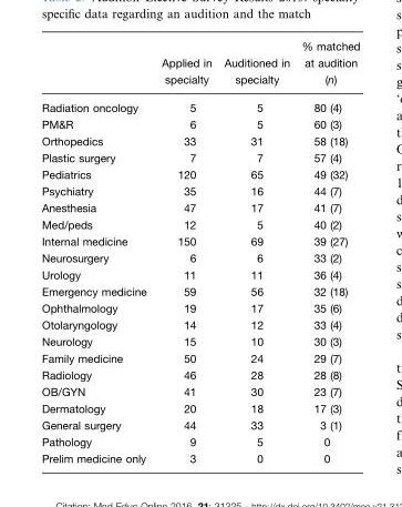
<table><thead><tr><td></td><td>Applied in specialty</td><td>Auditioned in specialty</td><td>% matched at audition (n)</td></tr></thead><tbody><tr><td>Radiation oncology</td><td>5</td><td>5</td><td>80 (4)</td></tr><tr><td>PM&amp;R</td><td>6</td><td>5</td><td>60 (3)</td></tr><tr><td>Orthopedics</td><td>33</td><td>31</td><td>58 (18)</td></tr><tr><td>Plastic surgery</td><td>7</td><td>7</td><td>57 (4)</td></tr><tr><td>Pediatrics</td><td>120</td><td>65</td><td>49 (32)</td></tr><tr><td>Psychiatry</td><td>35</td><td>16</td><td>44 (7)</td></tr><tr><td>Anesthesia</td><td>47</td><td>17</td><td>41 (7)</td></tr><tr><td>Med/peds</td><td>12</td><td>5</td><td>40 (2)</td></tr><tr><td>Internal medicine</td><td>150</td><td>69</td><td>39 (27)</td></tr><tr><td>Neurosurgery</td><td>6</td><td>6</td><td>33 (2)</td></tr><tr><td>Urology</td><td>11</td><td>11</td><td>36 (4)</td></tr><tr><td>Emergency medicine</td><td>59</td><td>56</td><td>32 (18)</td></tr><tr><td>Ophthalmology</td><td>19</td><td>17</td><td>35 (6)</td></tr><tr><td>Otolaryngology</td><td>14</td><td>12</td><td>33 (4)</td></tr><tr><td>Neurology</td><td>15</td><td>10</td><td>30 (3)</td></tr><tr><td>Family medicine</td><td>50</td><td>24</td><td>29 (7)</td></tr><tr><td>Radiology</td><td>46</td><td>28</td><td>28 (8)</td></tr><tr><td>OB/GYN</td><td>41</td><td>30</td><td>23 (7)</td></tr><tr><td>Dermatology</td><td>20</td><td>18</td><td>17 (3)</td></tr><tr><td>General surgery</td><td>44</td><td>33</td><td>3 (1)</td></tr><tr><td>Pathology</td><td>9</td><td>5</td><td>0</td></tr><tr><td>Prelim medicine only</td><td>3</td><td>0</td><td>0</td></tr></tbody></table>